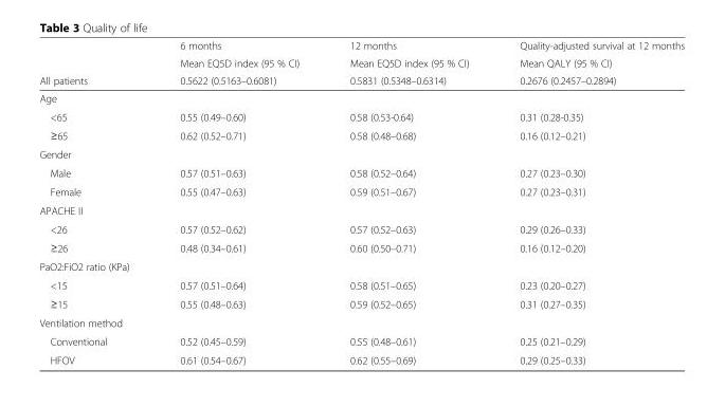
<table><thead><tr><td rowspan="3">All patients</td><td rowspan="3">6 months Mean EQ5D index (95 % CI) 0.5622 (0.5163–0.6081)</td><td rowspan="3">12 months Mean EQ5D index (95 % CI) 0.5831 (0.5348–0.6314)</td><td rowspan="3">Quality-adjusted survival at 12 months Mean QALY (95 % CI) 0.2676 (0.2457–0.2894)</td></tr><tr></tr><tr></tr></thead><tbody><tr><td colspan="4">Age</td></tr><tr><td>&lt;65</td><td>0.55 (0.49–0.60)</td><td>0.58 (0.53-0.64)</td><td>0.31 (0.28-0.35)</td></tr><tr><td>≥65</td><td>0.62 (0.52–0.71)</td><td>0.58 (0.48–0.68)</td><td>0.16 (0.12–0.21)</td></tr><tr><td colspan="4">Gender</td></tr><tr><td>Male</td><td>0.57 (0.51–0.63)</td><td>0.58 (0.52–0.64)</td><td>0.27 (0.23–0.30)</td></tr><tr><td>Female</td><td>0.55 (0.47–0.63)</td><td>0.59 (0.51–0.67)</td><td>0.27 (0.23–0.31)</td></tr><tr><td colspan="4">APACHE II</td></tr><tr><td>&lt;26</td><td>0.57 (0.52–0.62)</td><td>0.57 (0.52–0.63)</td><td>0.29 (0.26–0.33)</td></tr><tr><td>≥26</td><td>0.48 (0.34–0.61)</td><td>0.60 (0.50–0.71)</td><td>0.16 (0.12–0.20)</td></tr><tr><td colspan="4">PaO2:FiO2 ratio (KPa)</td></tr><tr><td>&lt;15</td><td>0.57 (0.51–0.64)</td><td>0.58 (0.51–0.65)</td><td>0.23 (0.20–0.27)</td></tr><tr><td>≥15</td><td>0.55 (0.48–0.63)</td><td>0.59 (0.52–0.65)</td><td>0.31 (0.27–0.35)</td></tr><tr><td colspan="4">Ventilation method</td></tr><tr><td>Conventional</td><td>0.52 (0.45–0.59)</td><td>0.55 (0.48–0.61)</td><td>0.25 (0.21–0.29)</td></tr><tr><td>HFOV</td><td>0.61 (0.54–0.67)</td><td>0.62 (0.55–0.69)</td><td>0.29 (0.25–0.33)</td></tr></tbody></table>